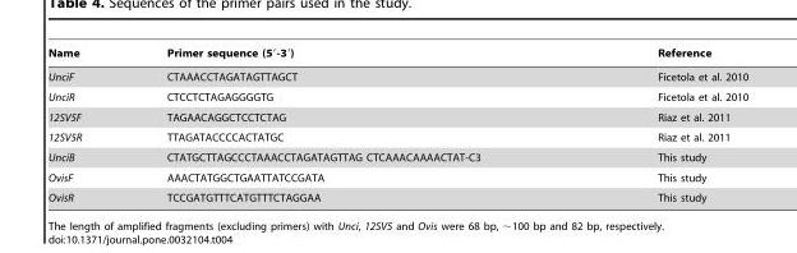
<table><thead><tr><td>Name</td><td>Primer sequence (5′-3′)</td><td>Reference</td></tr></thead><tbody><tr><td>UnciF</td><td>CTAAACCTAGATAGTTAGCT</td><td>Ficetola et al. 2010</td></tr><tr><td>UnciR</td><td>CTCCTCTAGAGGGGTG</td><td>Ficetola et al. 2010</td></tr><tr><td>12SV5F</td><td>TAGAACAGGCTCCTCTAG</td><td>Riaz et al. 2011</td></tr><tr><td>12SV5R</td><td>TTAGATACCCCACTATGC</td><td>Riaz et al. 2011</td></tr><tr><td>UnciB</td><td>CTATGCTTAGCCCTAAACCTAGATAGTTAG CTCAAACAAAACTAT-C3</td><td>This study</td></tr><tr><td>OvisF</td><td>AAACTATGGCTGAATTATCCGATA</td><td>This study</td></tr><tr><td>OvisR</td><td>TCCGATGTTTCATGTTTCTAGGAA</td><td>This study</td></tr></tbody></table>